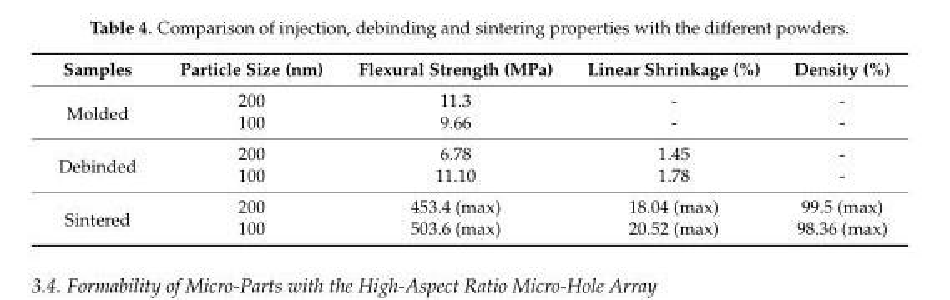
<table><thead><tr><td>Samples</td><td>Particle Size (nm)</td><td>Flexural Strength (MPa)</td><td>Linear Shrinkage (%)</td><td>Density (%)</td></tr></thead><tbody><tr><td rowspan="2">Molded</td><td>200</td><td>11.3</td><td>-</td><td>-</td></tr><tr><td>100</td><td>9.66</td><td>-</td><td>-</td></tr><tr><td rowspan="2">Debinded</td><td>200</td><td>6.78</td><td>1.45</td><td>-</td></tr><tr><td>100</td><td>11.10</td><td>1.78</td><td>-</td></tr><tr><td rowspan="2">Sintered</td><td>200</td><td>453.4 (max)</td><td>18.04 (max)</td><td>99.5 (max)</td></tr><tr><td>100</td><td>503.6 (max)</td><td>20.52 (max)</td><td>98.36 (max)</td></tr></tbody></table>